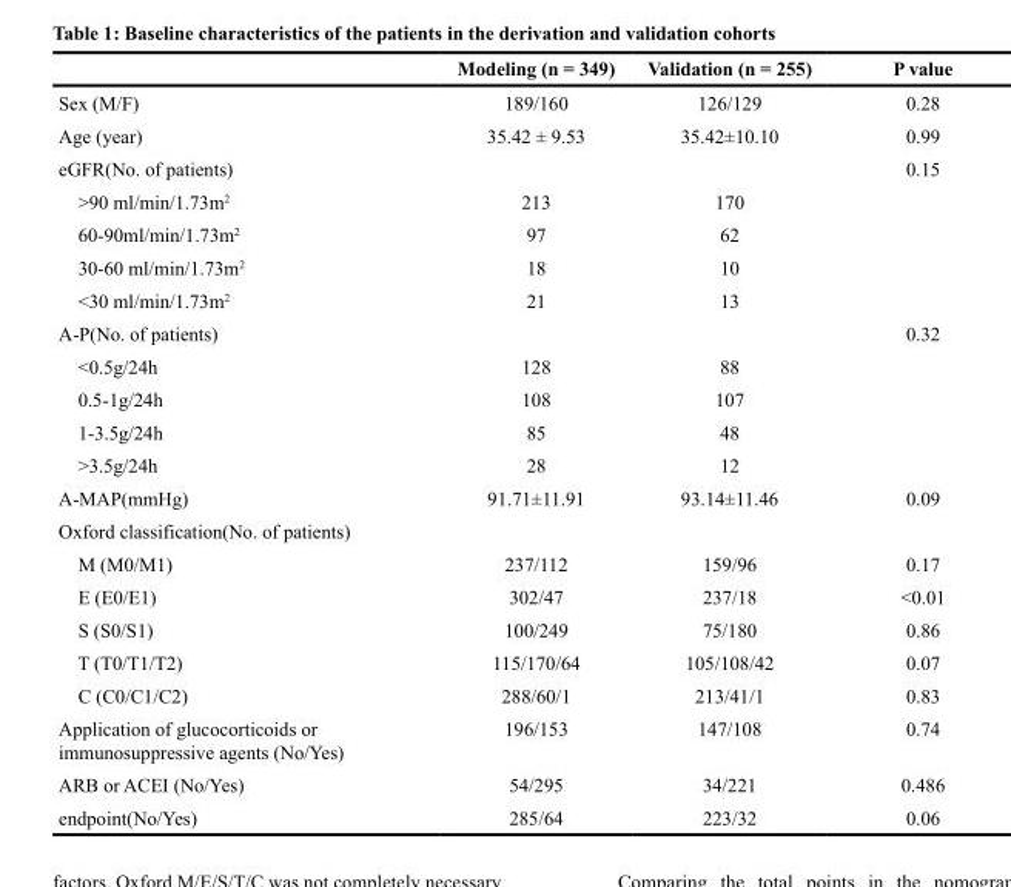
<table><thead><tr><td></td><td>Modeling (n = 349)</td><td>Validation (n = 255)</td><td>P value</td></tr></thead><tbody><tr><td>Sex (M/F)</td><td>189/160</td><td>126/129</td><td>0.28</td></tr><tr><td>Age (year)</td><td>35.42 ± 9.53</td><td>35.42±10.10</td><td>0.99</td></tr><tr><td>eGFR(No. of patients)</td><td></td><td></td><td>0.15</td></tr><tr><td>&gt;90 ml/min/1.73m<sup>2</sup></td><td>213</td><td>170</td><td></td></tr><tr><td>60-90ml/min/1.73m<sup>2</sup></td><td>97</td><td>62</td><td></td></tr><tr><td>30-60 ml/min/1.73m<sup>2</sup></td><td>18</td><td>10</td><td></td></tr><tr><td>&lt;30 ml/min/1.73m<sup>2</sup></td><td>21</td><td>13</td><td></td></tr><tr><td>A-P(No. of patients)</td><td></td><td></td><td>0.32</td></tr><tr><td>&lt;0.5g/24h</td><td>128</td><td>88</td><td></td></tr><tr><td>0.5-1g/24h</td><td>108</td><td>107</td><td></td></tr><tr><td>1-3.5g/24h</td><td>85</td><td>48</td><td></td></tr><tr><td>&gt;3.5g/24h</td><td>28</td><td>12</td><td></td></tr><tr><td>A-MAP(mmHg)</td><td>91.71±11.91</td><td>93.14±11.46</td><td>0.09</td></tr><tr><td colspan="4">Oxford classification(No. of patients)</td></tr><tr><td>M (M0/M1)</td><td>237/112</td><td>159/96</td><td>0.17</td></tr><tr><td>E (E0/E1)</td><td>302/47</td><td>237/18</td><td>&lt;0.01</td></tr><tr><td>S (S0/S1)</td><td>100/249</td><td>75/180</td><td>0.86</td></tr><tr><td>T (T0/T1/T2)</td><td>115/170/64</td><td>105/108/42</td><td>0.07</td></tr><tr><td>C (C0/C1/C2)</td><td>288/60/1</td><td>213/41/1</td><td>0.83</td></tr><tr><td>Application of glucocorticoids or immunosuppressive agents (No/Yes)</td><td>196/153</td><td>147/108</td><td>0.74</td></tr><tr><td>ARB or ACEI (No/Yes)</td><td>54/295</td><td>34/221</td><td>0.486</td></tr><tr><td>endpoint(No/Yes)</td><td>285/64</td><td>223/32</td><td>0.06</td></tr></tbody></table>